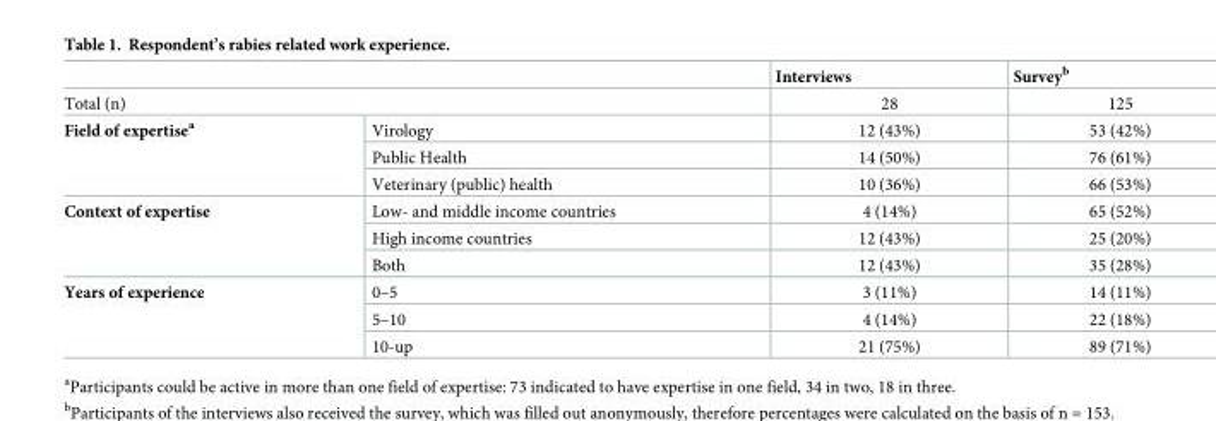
<table><thead><tr><td></td><td></td><td>Interviews</td><td>Survey<sup>b</sup></td></tr></thead><tbody><tr><td colspan="2">Total (n)</td><td>28</td><td>125</td></tr><tr><td rowspan="3">Field of expertise<sup>a</sup></td><td>Virology</td><td>12 (43%)</td><td>53 (42%)</td></tr><tr><td>Public Health</td><td>14 (50%)</td><td>76 (61%)</td></tr><tr><td>Veterinary (public) health</td><td>10 (36%)</td><td>66 (53%)</td></tr><tr><td rowspan="3">Context of expertise</td><td>Low- and middle income countries</td><td>4 (14%)</td><td>65 (52%)</td></tr><tr><td>High income countries</td><td>12 (43%)</td><td>25 (20%)</td></tr><tr><td>Both</td><td>12 (43%)</td><td>35 (28%)</td></tr><tr><td rowspan="3">Years of experience</td><td>0–5</td><td>3 (11%)</td><td>14 (11%)</td></tr><tr><td>5–10</td><td>4 (14%)</td><td>22 (18%)</td></tr><tr><td>10-up</td><td>21 (75%)</td><td>89 (71%)</td></tr></tbody></table>